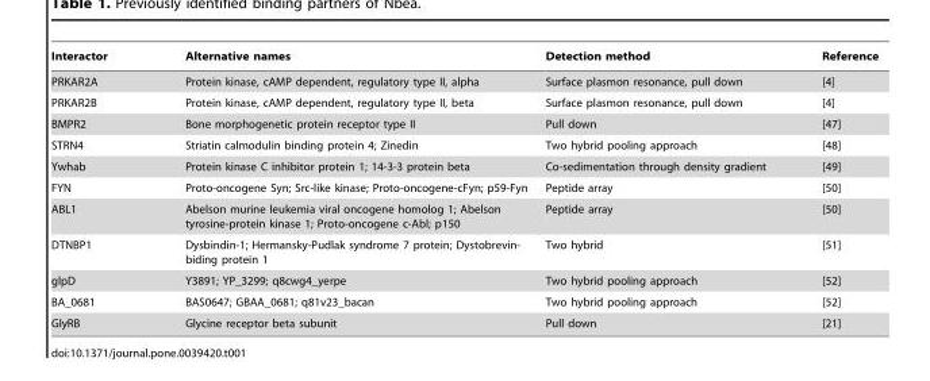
<table><thead><tr><td>Interactor</td><td>Alternative names</td><td>Detection method</td><td>Reference</td></tr></thead><tbody><tr><td>PRKAR2A</td><td>Protein kinase, cAMP dependent, regulatory type II, alpha</td><td>Surface plasmon resonance, pull down</td><td>[4]</td></tr><tr><td>PRKAR2B</td><td>Protein kinase, cAMP dependent, regulatory type II, beta</td><td>Surface plasmon resonance, pull down</td><td>[4]</td></tr><tr><td>BMPR2</td><td>Bone morphogenetic protein receptor type II</td><td>Pull down</td><td>[47]</td></tr><tr><td>STRN4</td><td>Striatin calmodulin binding protein 4; Zinedin</td><td>Two hybrid pooling approach</td><td>[48]</td></tr><tr><td>Ywhab</td><td>Protein kinase C inhibitor protein 1; 14-3-3 protein beta</td><td>Co-sedimentation through density gradient</td><td>[49]</td></tr><tr><td>FYN</td><td>Proto-oncogene Syn; Src-like kinase; Proto-oncogene-cFyn; p59-Fyn</td><td>Peptide array</td><td>[50]</td></tr><tr><td>ABL1</td><td>Abelson murine leukemia viral oncogene homolog 1; Abelson tyrosine-protein kinase 1; Proto-oncogene c-Abl; p150</td><td>Peptide array</td><td>[50]</td></tr><tr><td>DTNBP1</td><td>Dysbindin-1; Hermansky-Pudlak syndrome 7 protein; Dystobrevin- biding protein 1</td><td>Two hybrid</td><td>[51]</td></tr><tr><td>glpD</td><td>Y3891; YP_3299; q8cwg4_yerpe</td><td>Two hybrid pooling approach</td><td>[52]</td></tr><tr><td>BA_0681</td><td>BAS0647; GBAA_0681; q81v23_bacan</td><td>Two hybrid pooling approach</td><td>[52]</td></tr><tr><td>GlyRB</td><td>Glycine receptor beta subunit</td><td>Pull down</td><td>[21]</td></tr></tbody></table>